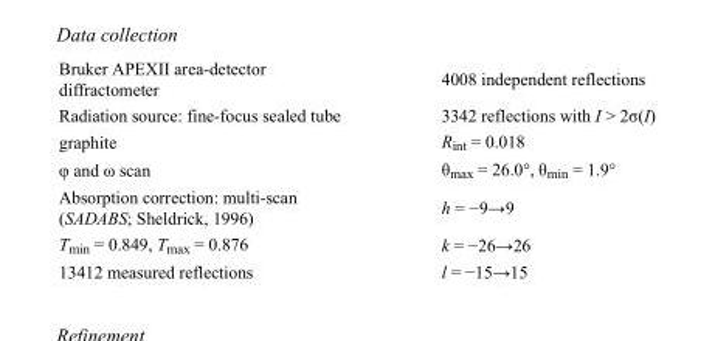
<table><tbody><tr><td>Bruker APEXII area-detector diffractometer</td><td>4008 independent reflections</td></tr><tr><td>Radiation source: fine-focus sealed tube</td><td>3342 reflections with I &gt; 2σ(I)</td></tr><tr><td>graphite</td><td>R<sub>int</sub> = 0.018</td></tr><tr><td>φ and ω scan</td><td>θ<sub>max</sub> = 26.0°, θ<sub>min</sub> = 1.9°</td></tr><tr><td>Absorption correction: multi-scan (SADABS; Sheldrick, 1996)</td><td>h = −9→9</td></tr><tr><td>T<sub>min</sub> = 0.849, T<sub>max</sub> = 0.876</td><td>k = −26→26</td></tr><tr><td>13412 measured reflections</td><td>l = −15→15</td></tr></tbody></table>